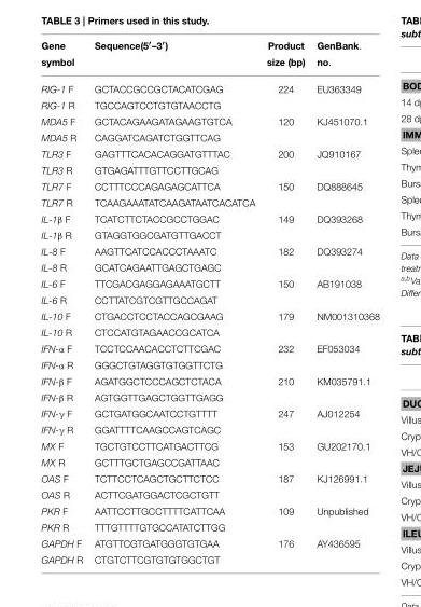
<table><thead><tr><td>Gene symbol</td><td>Sequence(5′–3′)</td><td>Product size (bp)</td><td>GenBank. no.</td></tr></thead><tbody><tr><td>RIG-1 F</td><td>GCTACCGCCGCTACATCGAG</td><td>224</td><td>EU363349</td></tr><tr><td>RIG-1 R</td><td>TGCCAGTCCTGTGTAACCTG</td><td></td><td></td></tr><tr><td>MDA5 F</td><td>GCTACAGAAGATAGAAGTGTCA</td><td>120</td><td>KJ451070.1</td></tr><tr><td>MDA5 R</td><td>CAGGATCAGATCTGGTTCAG</td><td></td><td></td></tr><tr><td>TLR3 F</td><td>GAGTTTCACACAGGATGTTTAC</td><td>200</td><td>JQ910167</td></tr><tr><td>TLR3 R</td><td>GTGAGATTTGTTCCTTGCAG</td><td></td><td></td></tr><tr><td>TLR7 F</td><td>CCTTTCCCAGAGAGCATTCA</td><td>150</td><td>DQ888645</td></tr><tr><td>TLR7 R</td><td>TCAAGAAATATCAAGATAATCACATCA</td><td></td><td></td></tr><tr><td>IL-1β F</td><td>TCATCTTCTACCGCCTGGAC</td><td>149</td><td>DQ393268</td></tr><tr><td>IL-1β R</td><td>GTAGGTGGCGATGTTGACCT</td><td></td><td></td></tr><tr><td>IL-8 F</td><td>AAGTTCATCCACCCTAAATC</td><td>182</td><td>DQ393274</td></tr><tr><td>IL-8 R</td><td>GCATCAGAATTGAGCTGAGC</td><td></td><td></td></tr><tr><td>IL-6 F</td><td>TTCGACGAGGAGAAATGCTT</td><td>150</td><td>AB191038</td></tr><tr><td>IL-6 R</td><td>CCTTATCGTCGTTGCCAGAT</td><td></td><td></td></tr><tr><td>IL-10 F</td><td>CTGACCTCCTACCAGCGAAG</td><td>179</td><td>NM001310368</td></tr><tr><td>IL-10 R</td><td>CTCCATGTAGAACCGCATCA</td><td></td><td></td></tr><tr><td>IFN-α F</td><td>TCCTCCAACACCTCTTCGAC</td><td>232</td><td>EF053034</td></tr><tr><td>IFN-α R</td><td>GGGCTGTAGGTGTGGTTCTG</td><td></td><td></td></tr><tr><td>IFN-β F</td><td>AGATGGCTCCCAGCTCTACA</td><td>210</td><td>KM035791.1</td></tr><tr><td>IFN-β R</td><td>AGTGGTTGAGCTGGTTGAGG</td><td></td><td></td></tr><tr><td>IFN-γ F</td><td>GCTGATGGCAATCCTGTTTT</td><td>247</td><td>AJ012254</td></tr><tr><td>IFN-γ R</td><td>GGATTTTCAAGCCAGTCAGC</td><td></td><td></td></tr><tr><td>MX F</td><td>TGCTGTCCTTCATGACTTCG</td><td>153</td><td>GU202170.1</td></tr><tr><td>MX R</td><td>GCTTTGCTGAGCCGATTAAC</td><td></td><td></td></tr><tr><td>OAS F</td><td>TCTTCCTCAGCTGCTTCTCC</td><td>187</td><td>KJ126991.1</td></tr><tr><td>OAS R</td><td>ACTTCGATGGACTCGCTGTT</td><td></td><td></td></tr><tr><td>PKR F</td><td>AATTCCTTGCCTTTTCATTCAA</td><td>109</td><td>Unpublished</td></tr><tr><td>PKR R</td><td>TTTGTTTTGTGCCATATCTTGG</td><td></td><td></td></tr><tr><td>GAPDH F</td><td>ATGTTCGTGATGGGTGTGAA</td><td>176</td><td>AY436595</td></tr><tr><td>GAPDH R</td><td>CTGTCTTCGTGTGTGGCTGT</td><td></td><td></td></tr></tbody></table>